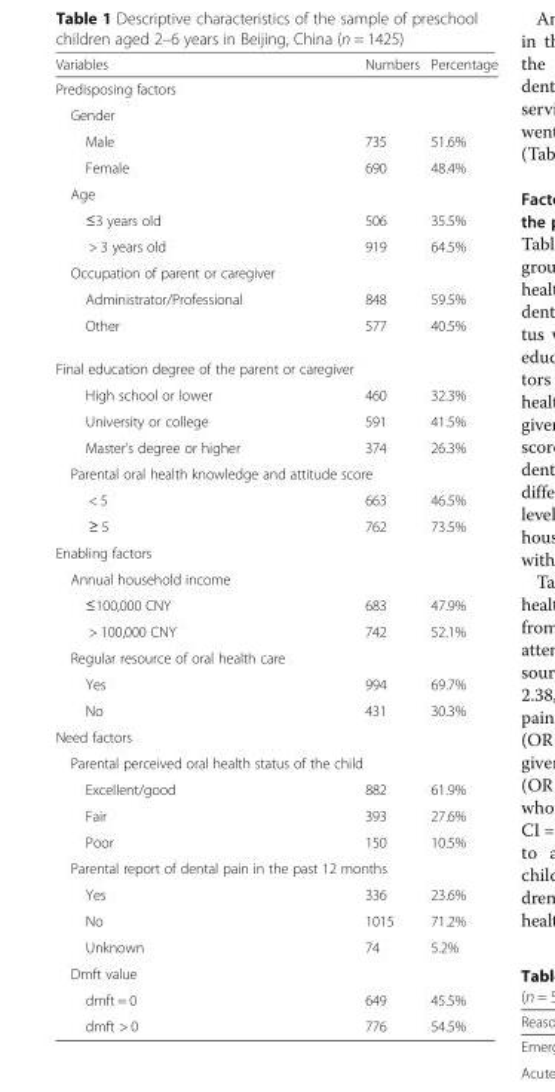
<table><thead><tr><td>Variables</td><td>Numbers</td><td>Percentage</td></tr></thead><tbody><tr><td colspan="3">Predisposing factors</td></tr><tr><td colspan="3">Gender</td></tr><tr><td>Male</td><td>735</td><td>51.6%</td></tr><tr><td>Female</td><td>690</td><td>48.4%</td></tr><tr><td colspan="3">Age</td></tr><tr><td>≤3 years old</td><td>506</td><td>35.5%</td></tr><tr><td>&gt; 3 years old</td><td>919</td><td>64.5%</td></tr><tr><td colspan="3">Occupation of parent or caregiver</td></tr><tr><td>Administrator/Professional</td><td>848</td><td>59.5%</td></tr><tr><td>Other</td><td>577</td><td>40.5%</td></tr><tr><td colspan="3">Final education degree of the parent or caregiver</td></tr><tr><td>High school or lower</td><td>460</td><td>32.3%</td></tr><tr><td>University or college</td><td>591</td><td>41.5%</td></tr><tr><td>Master’s degree or higher</td><td>374</td><td>26.3%</td></tr><tr><td colspan="3">Parental oral health knowledge and attitude score</td></tr><tr><td>&lt; 5</td><td>663</td><td>46.5%</td></tr><tr><td>≥ 5</td><td>762</td><td>73.5%</td></tr><tr><td colspan="3">Enabling factors</td></tr><tr><td colspan="3">Annual household income</td></tr><tr><td>≤100,000 CNY</td><td>683</td><td>47.9%</td></tr><tr><td>&gt; 100,000 CNY</td><td>742</td><td>52.1%</td></tr><tr><td colspan="3">Regular resource of oral health care</td></tr><tr><td>Yes</td><td>994</td><td>69.7%</td></tr><tr><td>No</td><td>431</td><td>30.3%</td></tr><tr><td colspan="3">Need factors</td></tr><tr><td colspan="3">Parental perceived oral health status of the child</td></tr><tr><td>Excellent/good</td><td>882</td><td>61.9%</td></tr><tr><td>Fair</td><td>393</td><td>27.6%</td></tr><tr><td>Poor</td><td>150</td><td>10.5%</td></tr><tr><td colspan="3">Parental report of dental pain in the past 12 months</td></tr><tr><td>Yes</td><td>336</td><td>23.6%</td></tr><tr><td>No</td><td>1015</td><td>71.2%</td></tr><tr><td>Unknown</td><td>74</td><td>5.2%</td></tr><tr><td colspan="3">Dmft value</td></tr><tr><td>dmft = 0</td><td>649</td><td>45.5%</td></tr><tr><td>dmft &gt; 0</td><td>776</td><td>54.5%</td></tr></tbody></table>